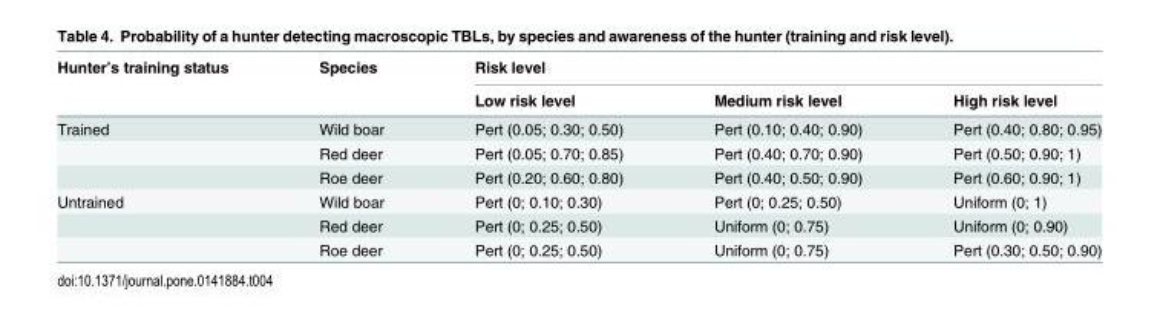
<table><thead><tr><td rowspan="2">Hunter’s training status</td><td rowspan="2">Species</td><td colspan="3">Risk level</td></tr><tr><td>Low risk level</td><td>Medium risk level</td><td>High risk level</td></tr></thead><tbody><tr><td rowspan="3">Trained</td><td>Wild boar</td><td>Pert (0.05; 0.30; 0.50)</td><td>Pert (0.10; 0.40; 0.90)</td><td>Pert (0.40; 0.80; 0.95)</td></tr><tr><td>Red deer</td><td>Pert (0.05; 0.70; 0.85)</td><td>Pert (0.40; 0.70; 0.90)</td><td>Pert (0.50; 0.90; 1)</td></tr><tr><td>Roe deer</td><td>Pert (0.20; 0.60; 0.80)</td><td>Pert (0.40; 0.50; 0.90)</td><td>Pert (0.60; 0.90; 1)</td></tr><tr><td rowspan="3">Untrained</td><td>Wild boar</td><td>Pert (0; 0.10; 0.30)</td><td>Pert (0; 0.25; 0.50)</td><td>Uniform (0; 1)</td></tr><tr><td>Red deer</td><td>Pert (0; 0.25; 0.50)</td><td>Uniform (0; 0.75)</td><td>Uniform (0; 0.90)</td></tr><tr><td>Roe deer</td><td>Pert (0; 0.25; 0.50)</td><td>Uniform (0; 0.75)</td><td>Pert (0.30; 0.50; 0.90)</td></tr></tbody></table>